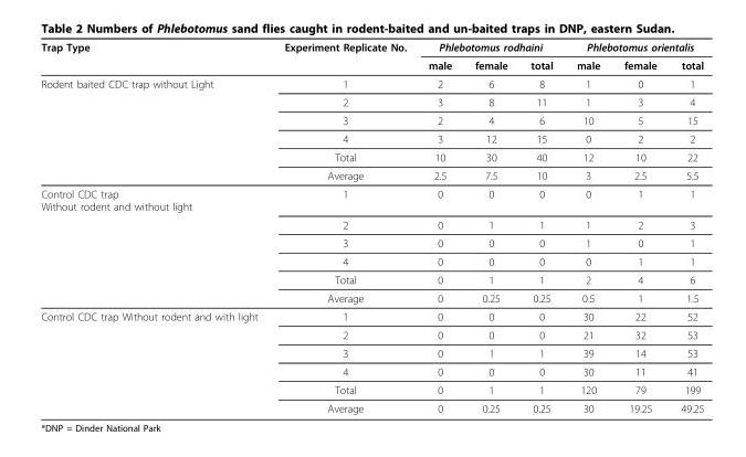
<table><thead><tr><td rowspan="2">Trap Type</td><td rowspan="2">Experiment Replicate No.</td><td colspan="3">Phlebotomus rodhaini</td><td colspan="3">Phlebotomus orientalis</td></tr><tr><td>male</td><td>female</td><td>total</td><td>male</td><td>female</td><td>total</td></tr></thead><tbody><tr><td rowspan="6">Rodent baited CDC trap without Light</td><td>1</td><td>2</td><td>6</td><td>8</td><td>1</td><td>0</td><td>1</td></tr><tr><td>2</td><td>3</td><td>8</td><td>11</td><td>1</td><td>3</td><td>4</td></tr><tr><td>3</td><td>2</td><td>4</td><td>6</td><td>10</td><td>5</td><td>15</td></tr><tr><td>4</td><td>3</td><td>12</td><td>15</td><td>0</td><td>2</td><td>2</td></tr><tr><td>Total</td><td>10</td><td>30</td><td>40</td><td>12</td><td>10</td><td>22</td></tr><tr><td>Average</td><td>2.5</td><td>7.5</td><td>10</td><td>3</td><td>2.5</td><td>5.5</td></tr><tr><td rowspan="6">Control CDC trap Without rodent and without light</td><td>1</td><td>0</td><td>0</td><td>0</td><td>0</td><td>1</td><td>1</td></tr><tr><td>2</td><td>0</td><td>1</td><td>1</td><td>1</td><td>2</td><td>3</td></tr><tr><td>3</td><td>0</td><td>0</td><td>0</td><td>1</td><td>0</td><td>1</td></tr><tr><td>4</td><td>0</td><td>0</td><td>0</td><td>0</td><td>1</td><td>1</td></tr><tr><td>Total</td><td>0</td><td>1</td><td>1</td><td>2</td><td>4</td><td>6</td></tr><tr><td>Average</td><td>0</td><td>0.25</td><td>0.25</td><td>0.5</td><td>1</td><td>1.5</td></tr><tr><td rowspan="6">Control CDC trap Without rodent and with light</td><td>1</td><td>0</td><td>0</td><td>0</td><td>30</td><td>22</td><td>52</td></tr><tr><td>2</td><td>0</td><td>0</td><td>0</td><td>21</td><td>32</td><td>53</td></tr><tr><td>3</td><td>0</td><td>1</td><td>1</td><td>39</td><td>14</td><td>53</td></tr><tr><td>4</td><td>0</td><td>0</td><td>0</td><td>30</td><td>11</td><td>41</td></tr><tr><td>Total</td><td>0</td><td>1</td><td>1</td><td>120</td><td>79</td><td>199</td></tr><tr><td>Average</td><td>0</td><td>0.25</td><td>0.25</td><td>30</td><td>19.25</td><td>49.25</td></tr></tbody></table>